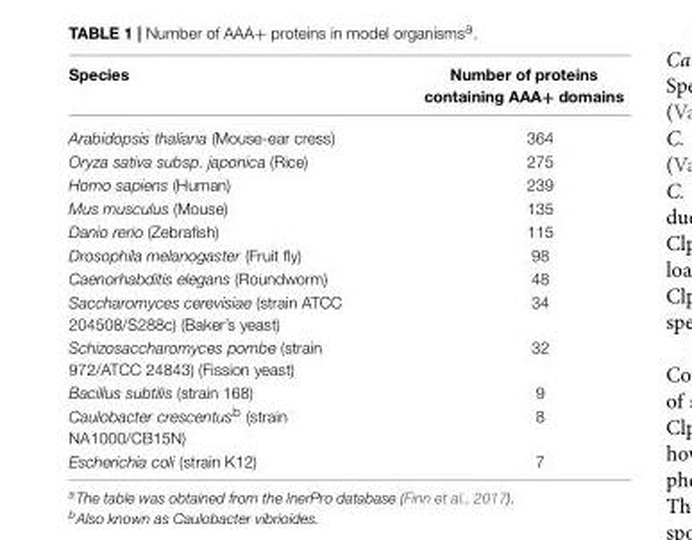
<table><thead><tr><td>Species</td><td>Number of proteins containing AAA+ domains</td></tr></thead><tbody><tr><td>Arabidopsis thaliana (Mouse-ear cress)</td><td>364</td></tr><tr><td>Oryza sativa subsp. japonica (Rice)</td><td>275</td></tr><tr><td>Homo sapiens (Human)</td><td>239</td></tr><tr><td>Mus musculus (Mouse)</td><td>135</td></tr><tr><td>Danio rerio (Zebrafish)</td><td>115</td></tr><tr><td>Drosophila melanogaster (Fruit fly)</td><td>98</td></tr><tr><td>Caenorhabditis elegans (Roundworm)</td><td>48</td></tr><tr><td>Saccharomyces cerevisiae (strain ATCC 204508/S288c) (Baker’s yeast)</td><td>34</td></tr><tr><td>Schizosaccharomyces pombe (strain 972/ATCC 24843) (Fission yeast)</td><td>32</td></tr><tr><td>Bacillus subtilis (strain 168)</td><td>9</td></tr><tr><td>Caulobacter crescentus<sup>b</sup> (strain NA1000/CB15N)</td><td>8</td></tr><tr><td>Escherichia coli (strain K12)</td><td>7</td></tr></tbody></table>